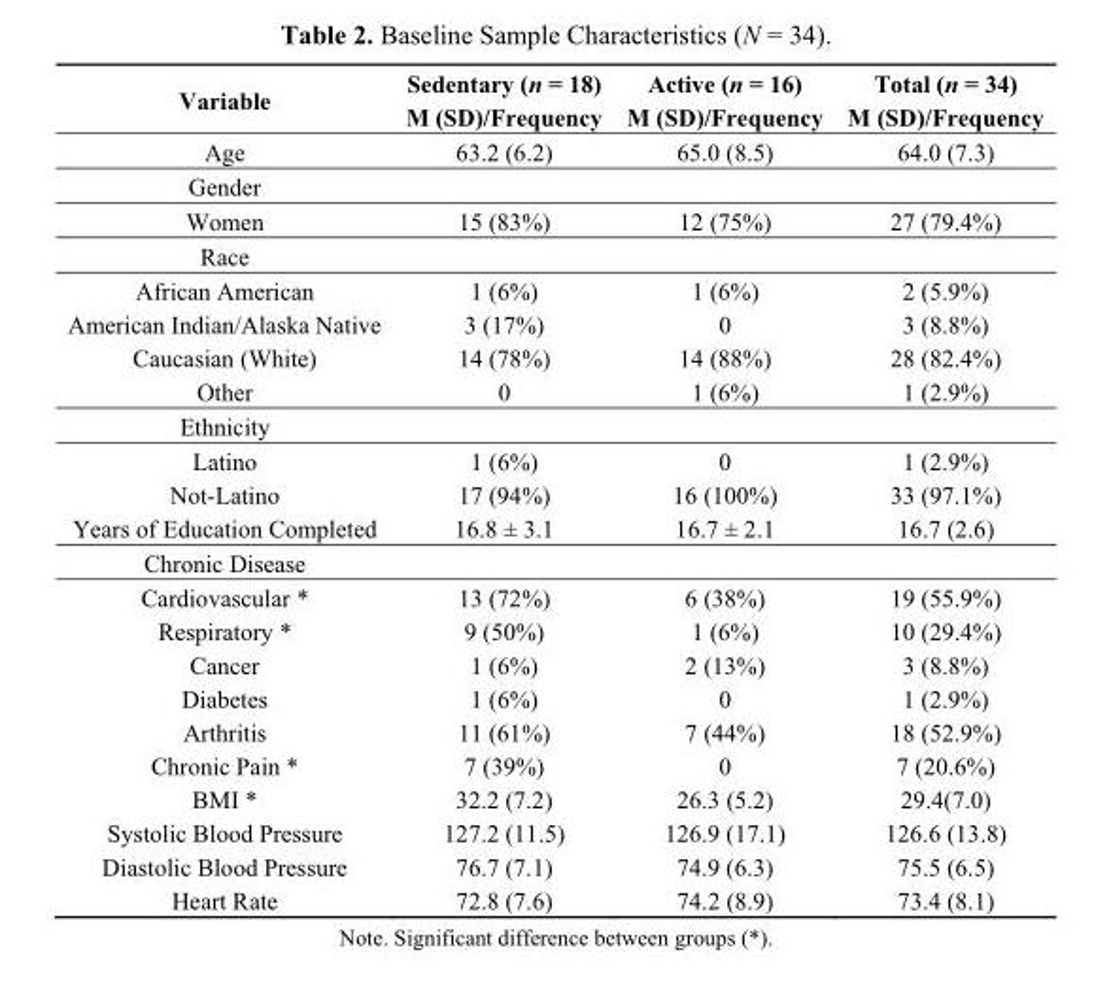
<table><thead><tr><td>Variable</td><td>Sedentary (n = 18) M (SD)/Frequency</td><td>Active (n = 16) M (SD)/Frequency</td><td>Total (n = 34) M (SD)/Frequency</td></tr></thead><tbody><tr><td>Age</td><td>63.2 (6.2)</td><td>65.0 (8.5)</td><td>64.0 (7.3)</td></tr><tr><td colspan="4">Gender</td></tr><tr><td>Women</td><td>15 (83%)</td><td>12 (75%)</td><td>27 (79.4%)</td></tr><tr><td colspan="4">Race</td></tr><tr><td>African American</td><td>1 (6%)</td><td>1 (6%)</td><td>2 (5.9%)</td></tr><tr><td>American Indian/Alaska Native</td><td>3 (17%)</td><td>0</td><td>3 (8.8%)</td></tr><tr><td>Caucasian (White)</td><td>14 (78%)</td><td>14 (88%)</td><td>28 (82.4%)</td></tr><tr><td>Other</td><td>0</td><td>1 (6%)</td><td>1 (2.9%)</td></tr><tr><td colspan="4">Ethnicity</td></tr><tr><td>Latino</td><td>1 (6%)</td><td>0</td><td>1 (2.9%)</td></tr><tr><td>Not-Latino</td><td>17 (94%)</td><td>16 (100%)</td><td>33 (97.1%)</td></tr><tr><td>Years of Education Completed</td><td>16.8 ± 3.1</td><td>16.7 ± 2.1</td><td>16.7 (2.6)</td></tr><tr><td colspan="4">Chronic Disease</td></tr><tr><td>Cardiovascular *</td><td>13 (72%)</td><td>6 (38%)</td><td>19 (55.9%)</td></tr><tr><td>Respiratory *</td><td>9 (50%)</td><td>1 (6%)</td><td>10 (29.4%)</td></tr><tr><td>Cancer</td><td>1 (6%)</td><td>2 (13%)</td><td>3 (8.8%)</td></tr><tr><td>Diabetes</td><td>1 (6%)</td><td>0</td><td>1 (2.9%)</td></tr><tr><td>Arthritis</td><td>11 (61%)</td><td>7 (44%)</td><td>18 (52.9%)</td></tr><tr><td>Chronic Pain *</td><td>7 (39%)</td><td>0</td><td>7 (20.6%)</td></tr><tr><td>BMI *</td><td>32.2 (7.2)</td><td>26.3 (5.2)</td><td>29.4(7.0)</td></tr><tr><td>Systolic Blood Pressure</td><td>127.2 (11.5)</td><td>126.9 (17.1)</td><td>126.6 (13.8)</td></tr><tr><td>Diastolic Blood Pressure</td><td>76.7 (7.1)</td><td>74.9 (6.3)</td><td>75.5 (6.5)</td></tr><tr><td>Heart Rate</td><td>72.8 (7.6)</td><td>74.2 (8.9)</td><td>73.4 (8.1)</td></tr></tbody></table>